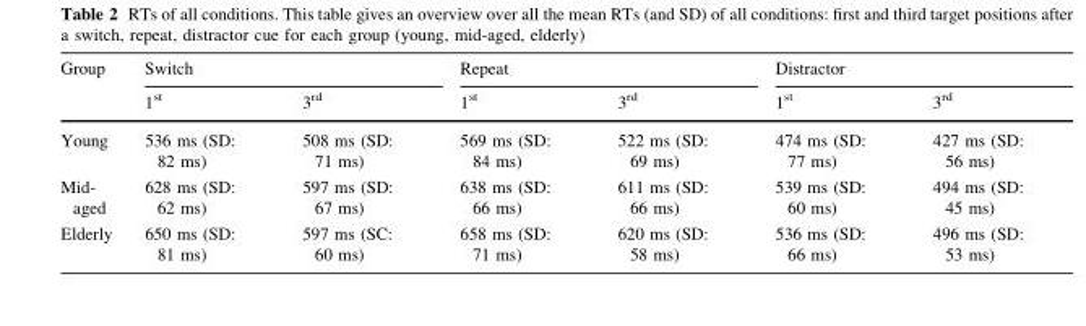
<table><thead><tr><td rowspan="2">Group</td><td colspan="2">Switch</td><td colspan="2">Repeat</td><td colspan="2">Distractor</td></tr><tr><td>1<sup>st</sup></td><td>3<sup>rd</sup></td><td>1<sup>st</sup></td><td>3<sup>rd</sup></td><td>1<sup>st</sup></td><td>3<sup>rd</sup></td></tr></thead><tbody><tr><td>Young</td><td>536 ms (SD: 82 ms)</td><td>508 ms (SD: 71 ms)</td><td>569 ms (SD: 84 ms)</td><td>522 ms (SD: 69 ms)</td><td>474 ms (SD: 77 ms)</td><td>427 ms (SD: 56 ms)</td></tr><tr><td>Mid- aged</td><td>628 ms (SD: 62 ms)</td><td>597 ms (SD: 67 ms)</td><td>638 ms (SD: 66 ms)</td><td>611 ms (SD: 66 ms)</td><td>539 ms (SD: 60 ms)</td><td>494 ms (SD: 45 ms)</td></tr><tr><td>Elderly</td><td>650 ms (SD: 81 ms)</td><td>597 ms (SC: 60 ms)</td><td>658 ms (SD: 71 ms)</td><td>620 ms (SD: 58 ms)</td><td>536 ms (SD: 66 ms)</td><td>496 ms (SD: 53 ms)</td></tr></tbody></table>